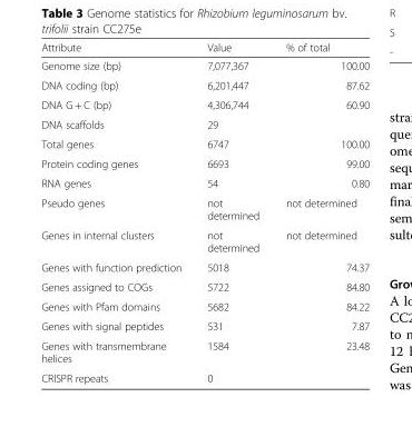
<table><thead><tr><td>Attribute</td><td>Value</td><td>% of total</td></tr></thead><tbody><tr><td>Genome size (bp)</td><td>7,077,367</td><td>100.00</td></tr><tr><td>DNA coding (bp)</td><td>6,201,447</td><td>87.62</td></tr><tr><td>DNA G + C (bp)</td><td>4,306,744</td><td>60.90</td></tr><tr><td>DNA scaffolds</td><td>29</td><td></td></tr><tr><td>Total genes</td><td>6747</td><td>100.00</td></tr><tr><td>Protein coding genes</td><td>6693</td><td>99.00</td></tr><tr><td>RNA genes</td><td>54</td><td>0.80</td></tr><tr><td>Pseudo genes</td><td>not determined</td><td>not determined</td></tr><tr><td>Genes in internal clusters</td><td>not determined</td><td>not determined</td></tr><tr><td>Genes with function prediction</td><td>5018</td><td>74.37</td></tr><tr><td>Genes assigned to COGs</td><td>5722</td><td>84.80</td></tr><tr><td>Genes with Pfam domains</td><td>5682</td><td>84.22</td></tr><tr><td>Genes with signal peptides</td><td>531</td><td>7.87</td></tr><tr><td>Genes with transmembrane helices</td><td>1584</td><td>23.48</td></tr><tr><td>CRISPR repeats</td><td>0</td><td></td></tr></tbody></table>